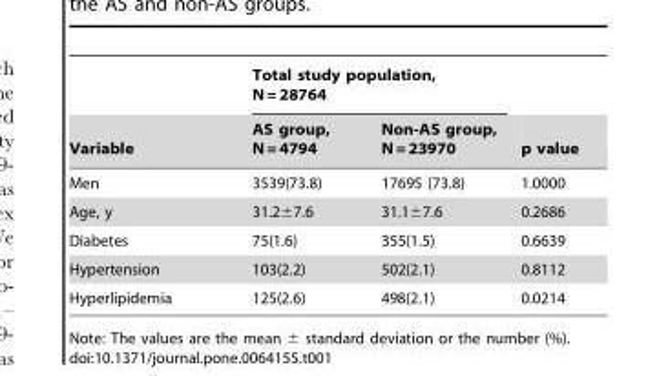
<table><thead><tr><td rowspan="2">Variable</td><td colspan="2">Total study population, N = 28764</td><td rowspan="2">p value</td></tr><tr><td>AS group, N = 4794</td><td>Non-AS group, N = 23970</td></tr></thead><tbody><tr><td>Men</td><td>3539(73.8)</td><td>17695 (73.8)</td><td>1.0000</td></tr><tr><td>Age, y</td><td>31.2±7.6</td><td>31.1±7.6</td><td>0.2686</td></tr><tr><td>Diabetes</td><td>75(1.6)</td><td>355(1.5)</td><td>0.6639</td></tr><tr><td>Hypertension</td><td>103(2.2)</td><td>502(2.1)</td><td>0.8112</td></tr><tr><td>Hyperlipidemia</td><td>125(2.6)</td><td>498(2.1)</td><td>0.0214</td></tr></tbody></table>